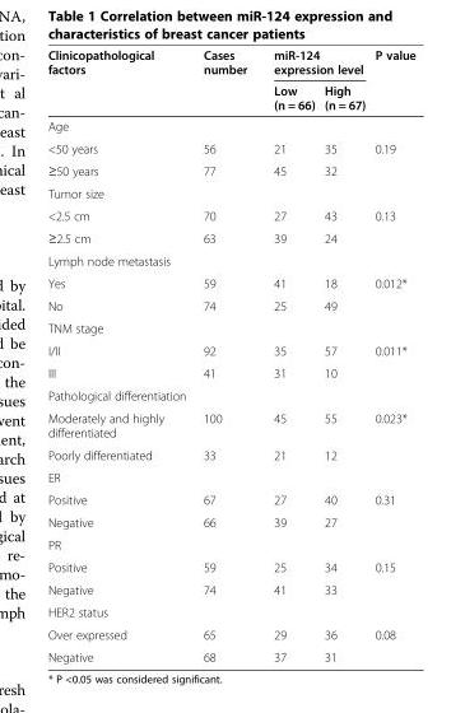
<table><thead><tr><td rowspan="2">Clinicopathological factors</td><td rowspan="2">Cases number</td><td colspan="2">miR-124 expression level</td><td rowspan="2">P value</td></tr><tr><td>Low (n = 66)</td><td>High (n = 67)</td></tr></thead><tbody><tr><td colspan="5">Age</td></tr><tr><td>&lt;50 years</td><td>56</td><td>21</td><td>35</td><td>0.19</td></tr><tr><td>≥50 years</td><td>77</td><td>45</td><td>32</td><td></td></tr><tr><td colspan="5">Tumor size</td></tr><tr><td>&lt;2.5 cm</td><td>70</td><td>27</td><td>43</td><td>0.13</td></tr><tr><td>≥2.5 cm</td><td>63</td><td>39</td><td>24</td><td></td></tr><tr><td colspan="5">Lymph node metastasis</td></tr><tr><td>Yes</td><td>59</td><td>41</td><td>18</td><td>0.012*</td></tr><tr><td>No</td><td>74</td><td>25</td><td>49</td><td></td></tr><tr><td colspan="5">TNM stage</td></tr><tr><td>I/II</td><td>92</td><td>35</td><td>57</td><td>0.011*</td></tr><tr><td>III</td><td>41</td><td>31</td><td>10</td><td></td></tr><tr><td colspan="5">Pathological differentiation</td></tr><tr><td>Moderately and highly differentiated</td><td>100</td><td>45</td><td>55</td><td>0.023*</td></tr><tr><td>Poorly differentiated</td><td>33</td><td>21</td><td>12</td><td></td></tr><tr><td colspan="5">ER</td></tr><tr><td>Positive</td><td>67</td><td>27</td><td>40</td><td>0.31</td></tr><tr><td>Negative</td><td>66</td><td>39</td><td>27</td><td></td></tr><tr><td colspan="5">PR</td></tr><tr><td>Positive</td><td>59</td><td>25</td><td>34</td><td>0.15</td></tr><tr><td>Negative</td><td>74</td><td>41</td><td>33</td><td></td></tr><tr><td colspan="5">HER2 status</td></tr><tr><td>Over expressed</td><td>65</td><td>29</td><td>36</td><td>0.08</td></tr><tr><td>Negative</td><td>68</td><td>37</td><td>31</td><td></td></tr></tbody></table>